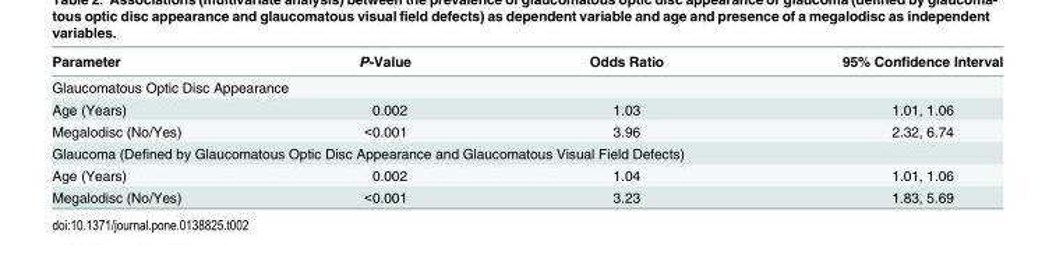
<table><thead><tr><td>Parameter</td><td>P-Value</td><td>Odds Ratio</td><td>95% Confidence Interval</td></tr></thead><tbody><tr><td colspan="4">Glaucomatous Optic Disc Appearance</td></tr><tr><td>Age (Years)</td><td>0.002</td><td>1.03</td><td>1.01, 1.06</td></tr><tr><td>Megalodisc (No/Yes)</td><td>&lt;0.001</td><td>3.96</td><td>2.32, 6.74</td></tr><tr><td colspan="4">Glaucoma (Defined by Glaucomatous Optic Disc Appearance and Glaucomatous Visual Field Defects)</td></tr><tr><td>Age (Years)</td><td>0.002</td><td>1.04</td><td>1.01, 1.06</td></tr><tr><td>Megalodisc (No/Yes)</td><td>&lt;0.001</td><td>3.23</td><td>1.83, 5.69</td></tr></tbody></table>